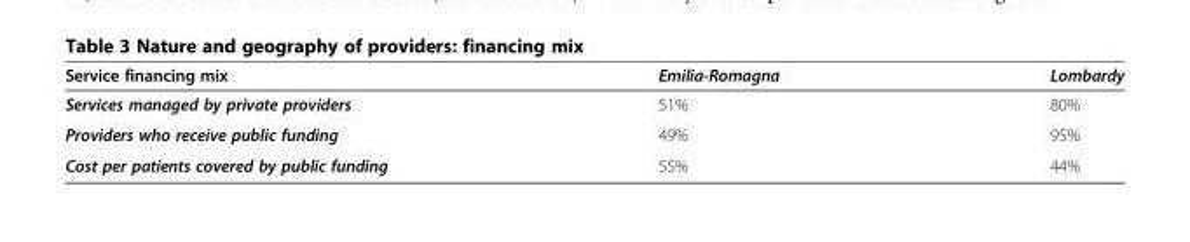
<table><thead><tr><td>Service financing mix</td><td>Emilia-Romagna</td><td>Lombardy</td></tr></thead><tbody><tr><td>Services managed by private providers</td><td>51%</td><td>80%</td></tr><tr><td>Providers who receive public funding</td><td>49%</td><td>95%</td></tr><tr><td>Cost per patients covered by public funding</td><td>55%</td><td>44%</td></tr></tbody></table>